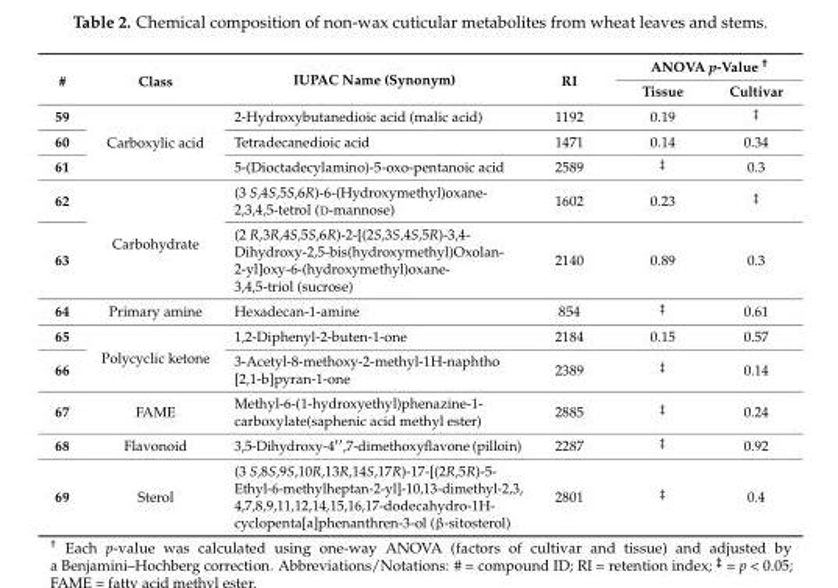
<table><thead><tr><td rowspan="2">#</td><td rowspan="2">Class</td><td rowspan="2">IUPAC Name (Synonym)</td><td rowspan="2">RI</td><td colspan="2">ANOVA p-Value <sup>†</sup></td></tr><tr><td>Tissue</td><td>Cultivar</td></tr></thead><tbody><tr><td>59</td><td rowspan="3">Carboxylic acid</td><td>2-Hydroxybutanedioic acid (malic acid)</td><td>1192</td><td>0.19</td><td><sup>‡</sup></td></tr><tr><td>60</td><td>Tetradecanedioic acid</td><td>1471</td><td>0.14</td><td>0.34</td></tr><tr><td>61</td><td>5-(Dioctadecylamino)-5-oxo-pentanoic acid</td><td>2589</td><td><sup>‡</sup></td><td>0.3</td></tr><tr><td>62</td><td rowspan="2">Carbohydrate</td><td>(3 S,4S,5S,6R)-6-(Hydroxymethyl)oxane- 2,3,4,5-tetrol (D-mannose)</td><td>1602</td><td>0.23</td><td><sup>‡</sup></td></tr><tr><td>63</td><td>(2 R,3R,4S,5S,6R)-2-[(2S,3S,4S,5R)-3,4- Dihydroxy-2,5-bis(hydroxymethyl)Oxolan- 2-yl]oxy-6-(hydroxymethyl)oxane- 3,4,5-triol (sucrose)</td><td>2140</td><td>0.89</td><td>0.3</td></tr><tr><td>64</td><td>Primary amine</td><td>Hexadecan-1-amine</td><td>854</td><td><sup>‡</sup></td><td>0.61</td></tr><tr><td>65</td><td rowspan="2">Polycyclic ketone</td><td>1,2-Diphenyl-2-buten-1-one</td><td>2184</td><td>0.15</td><td>0.57</td></tr><tr><td>66</td><td>3-Acetyl-8-methoxy-2-methyl-1H-naphtho [2,1-b]pyran-1-one</td><td>2389</td><td><sup>‡</sup></td><td>0.14</td></tr><tr><td>67</td><td>FAME</td><td>Methyl-6-(1-hydroxyethyl)phenazine-1- carboxylate(saphenic acid methyl ester)</td><td>2885</td><td><sup>‡</sup></td><td>0.24</td></tr><tr><td>68</td><td>Flavonoid</td><td>3,5-Dihydroxy-4′′,7-dimethoxyflavone (pilloin)</td><td>2287</td><td><sup>‡</sup></td><td>0.92</td></tr><tr><td>69</td><td>Sterol</td><td>(3 S,8S,9S,10R,13R,14S,17R)-17-[(2R,5R)-5- Ethyl-6-methylheptan-2-yl]-10,13-dimethyl-2,3, 4,7,8,9,11,12,14,15,16,17-dodecahydro-1H- cyclopenta[a]phenanthren-3-ol (β-sitosterol)</td><td>2801</td><td><sup>‡</sup></td><td>0.4</td></tr></tbody></table>